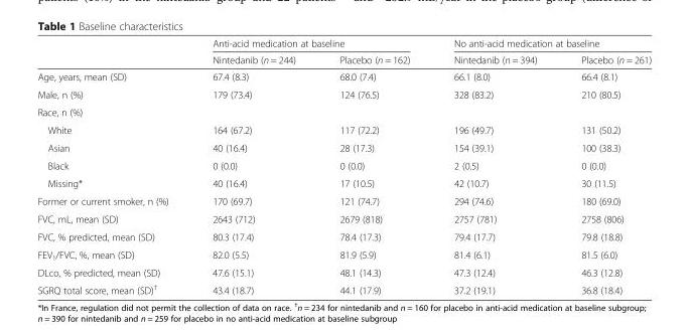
<table><thead><tr><td rowspan="2"></td><td colspan="2">Anti-acid medication at baseline</td><td colspan="2">No anti-acid medication at baseline</td></tr><tr><td>Nintedanib (n = 244)</td><td>Placebo (n = 162)</td><td>Nintedanib (n = 394)</td><td>Placebo (n = 261)</td></tr></thead><tbody><tr><td>Age, years, mean (SD)</td><td>67.4 (8.3)</td><td>68.0 (7.4)</td><td>66.1 (8.0)</td><td>66.4 (8.1)</td></tr><tr><td>Male, n (%)</td><td>179 (73.4)</td><td>124 (76.5)</td><td>328 (83.2)</td><td>210 (80.5)</td></tr><tr><td colspan="5">Race, n (%)</td></tr><tr><td>White</td><td>164 (67.2)</td><td>117 (72.2)</td><td>196 (49.7)</td><td>131 (50.2)</td></tr><tr><td>Asian</td><td>40 (16.4)</td><td>28 (17.3)</td><td>154 (39.1)</td><td>100 (38.3)</td></tr><tr><td>Black</td><td>0 (0.0)</td><td>0 (0.0)</td><td>2 (0.5)</td><td>0 (0.0)</td></tr><tr><td>Missing*</td><td>40 (16.4)</td><td>17 (10.5)</td><td>42 (10.7)</td><td>30 (11.5)</td></tr><tr><td>Former or current smoker, n (%)</td><td>170 (69.7)</td><td>121 (74.7)</td><td>294 (74.6)</td><td>180 (69.0)</td></tr><tr><td>FVC, mL, mean (SD)</td><td>2643 (712)</td><td>2679 (818)</td><td>2757 (781)</td><td>2758 (806)</td></tr><tr><td>FVC, % predicted, mean (SD)</td><td>80.3 (17.4)</td><td>78.4 (17.3)</td><td>79.4 (17.7)</td><td>79.8 (18.8)</td></tr><tr><td>FEV<sub>1</sub>/FVC, %, mean (SD)</td><td>82.0 (5.5)</td><td>81.9 (5.9)</td><td>81.4 (6.1)</td><td>81.5 (6.0)</td></tr><tr><td>DLco, % predicted, mean (SD)</td><td>47.6 (15.1)</td><td>48.1 (14.3)</td><td>47.3 (12.4)</td><td>46.3 (12.8)</td></tr><tr><td>SGRQ total score, mean (SD)<sup>†</sup></td><td>43.4 (18.7)</td><td>44.1 (17.9)</td><td>37.2 (19.1)</td><td>36.8 (18.4)</td></tr></tbody></table>